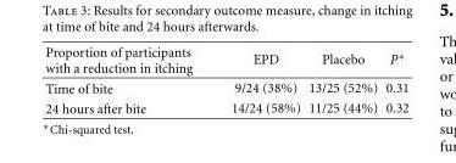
<table><thead><tr><td>Proportion of participants with a reduction in itching</td><td>EPD</td><td>Placebo</td><td>P∗</td></tr></thead><tbody><tr><td>Time of bite</td><td>9/24 (38%)</td><td>13/25 (52%)</td><td>0.31</td></tr><tr><td>24 hours after bite</td><td>14/24 (58%)</td><td>11/25 (44%)</td><td>0.32</td></tr></tbody></table>